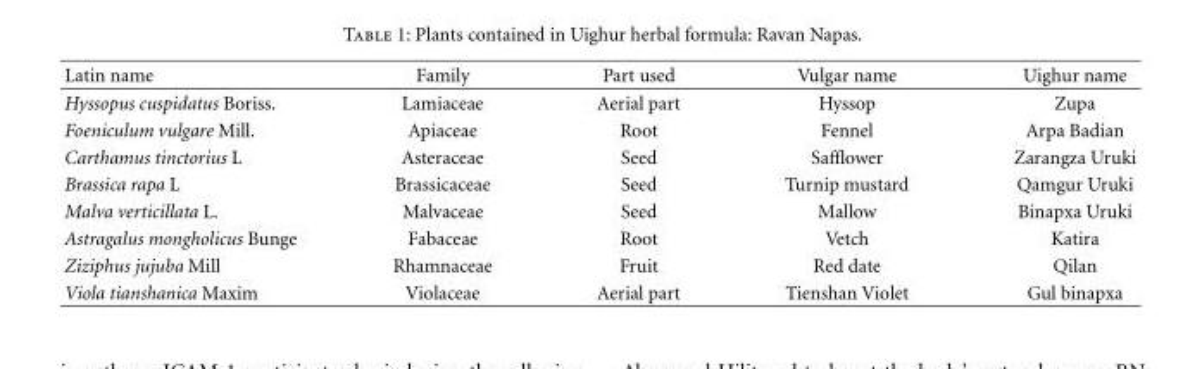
<table><thead><tr><td>Latin name</td><td>Family</td><td>Part used</td><td>Vulgar name</td><td>Uighur name</td></tr></thead><tbody><tr><td>Hyssopus cuspidatus Boriss.</td><td>Lamiaceae</td><td>Aerial part</td><td>Hyssop</td><td>Zupa</td></tr><tr><td>Foeniculum vulgare Mill.</td><td>Apiaceae</td><td>Root</td><td>Fennel</td><td>Arpa Badian</td></tr><tr><td>Carthamus tinctorius L</td><td>Asteraceae</td><td>Seed</td><td>Safflower</td><td>Zarangza Uruki</td></tr><tr><td>Brassica rapa L</td><td>Brassicaceae</td><td>Seed</td><td>Turnip mustard</td><td>Qamgur Uruki</td></tr><tr><td>Malva verticillata L.</td><td>Malvaceae</td><td>Seed</td><td>Mallow</td><td>Binapxa Uruki</td></tr><tr><td>Astragalus mongholicus Bunge</td><td>Fabaceae</td><td>Root</td><td>Vetch</td><td>Katira</td></tr><tr><td>Ziziphus jujuba Mill</td><td>Rhamnaceae</td><td>Fruit</td><td>Red date</td><td>Qilan</td></tr><tr><td>Viola tianshanica Maxim</td><td>Violaceae</td><td>Aerial part</td><td>Tienshan Violet</td><td>Gul binapxa</td></tr></tbody></table>